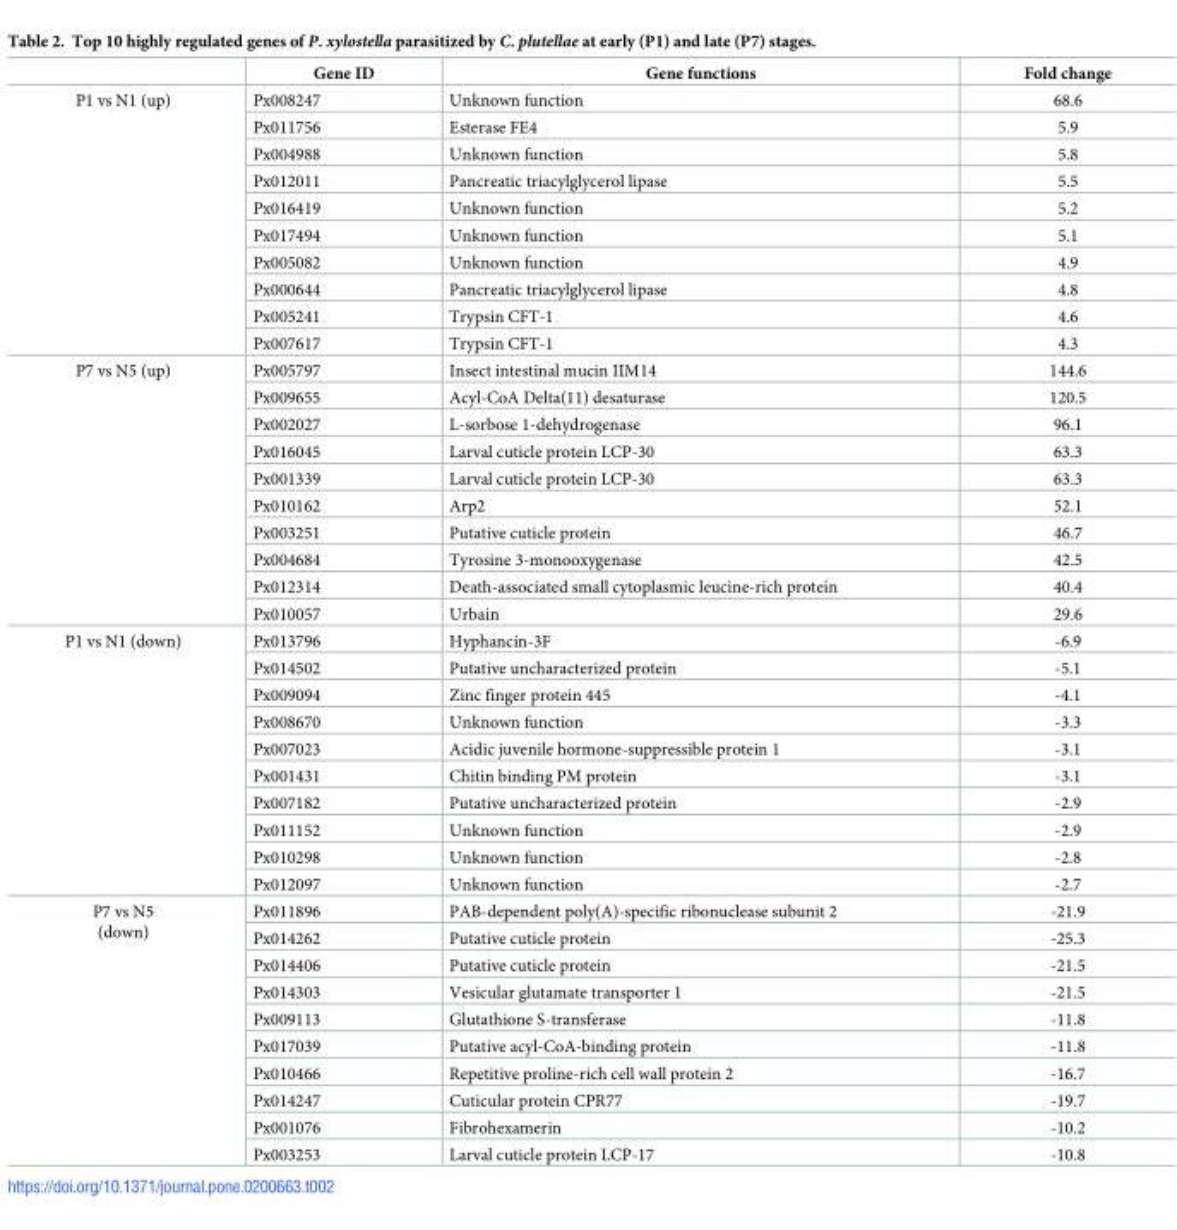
<table><thead><tr><td></td><td>Gene ID</td><td>Gene functions</td><td>Fold change</td></tr></thead><tbody><tr><td rowspan="10">P1 vs N1 (up)</td><td>Px008247</td><td>Unknown function</td><td>68.6</td></tr><tr><td>Px011756</td><td>Esterase FE4</td><td>5.9</td></tr><tr><td>Px004988</td><td>Unknown function</td><td>5.8</td></tr><tr><td>Px012011</td><td>Pancreatic triacylglycerol lipase</td><td>5.5</td></tr><tr><td>Px016419</td><td>Unknown function</td><td>5.2</td></tr><tr><td>Px017494</td><td>Unknown function</td><td>5.1</td></tr><tr><td>Px005082</td><td>Unknown function</td><td>4.9</td></tr><tr><td>Px000644</td><td>Pancreatic triacylglycerol lipase</td><td>4.8</td></tr><tr><td>Px005241</td><td>Trypsin CFT-1</td><td>4.6</td></tr><tr><td>Px007617</td><td>Trypsin CFT-1</td><td>4.3</td></tr><tr><td rowspan="10">P7 vs N5 (up)</td><td>Px005797</td><td>Insect intestinal mucin IIM14</td><td>144.6</td></tr><tr><td>Px009655</td><td>Acyl-CoA Delta(11) desaturase</td><td>120.5</td></tr><tr><td>Px002027</td><td>L-sorbose 1-dehydrogenase</td><td>96.1</td></tr><tr><td>Px016045</td><td>Larval cuticle protein LCP-30</td><td>63.3</td></tr><tr><td>Px001339</td><td>Larval cuticle protein LCP-30</td><td>63.3</td></tr><tr><td>Px010162</td><td>Arp2</td><td>52.1</td></tr><tr><td>Px003251</td><td>Putative cuticle protein</td><td>46.7</td></tr><tr><td>Px004684</td><td>Tyrosine 3-monooxygenase</td><td>42.5</td></tr><tr><td>Px012314</td><td>Death-associated small cytoplasmic leucine-rich protein</td><td>40.4</td></tr><tr><td>Px010057</td><td>Urbain</td><td>29.6</td></tr><tr><td rowspan="10">P1 vs N1 (down)</td><td>Px013796</td><td>Hyphancin-3F</td><td>-6.9</td></tr><tr><td>Px014502</td><td>Putative uncharacterized protein</td><td>-5.1</td></tr><tr><td>Px009094</td><td>Zinc finger protein 445</td><td>-4.1</td></tr><tr><td>Px008670</td><td>Unknown function</td><td>-3.3</td></tr><tr><td>Px007023</td><td>Acidic juvenile hormone-suppressible protein 1</td><td>-3.1</td></tr><tr><td>Px001431</td><td>Chitin binding PM protein</td><td>-3.1</td></tr><tr><td>Px007182</td><td>Putative uncharacterized protein</td><td>-2.9</td></tr><tr><td>Px011152</td><td>Unknown function</td><td>-2.9</td></tr><tr><td>Px010298</td><td>Unknown function</td><td>-2.8</td></tr><tr><td>Px012097</td><td>Unknown function</td><td>-2.7</td></tr><tr><td rowspan="10">P7 vs N5 (down)</td><td>Px011896</td><td>PAB-dependent poly(A)-specific ribonuclease subunit 2</td><td>-21.9</td></tr><tr><td>Px014262</td><td>Putative cuticle protein</td><td>-25.3</td></tr><tr><td>Px014406</td><td>Putative cuticle protein</td><td>-21.5</td></tr><tr><td>Px014303</td><td>Vesicular glutamate transporter 1</td><td>-21.5</td></tr><tr><td>Px009113</td><td>Glutathione S-transferase</td><td>-11.8</td></tr><tr><td>Px017039</td><td>Putative acyl-CoA-binding protein</td><td>-11.8</td></tr><tr><td>Px010466</td><td>Repetitive proline-rich cell wall protein 2</td><td>-16.7</td></tr><tr><td>Px014247</td><td>Cuticular protein CPR77</td><td>-19.7</td></tr><tr><td>Px001076</td><td>Fibrohexamerin</td><td>-10.2</td></tr><tr><td>Px003253</td><td>Larval cuticle protein LCP-17</td><td>-10.8</td></tr></tbody></table>